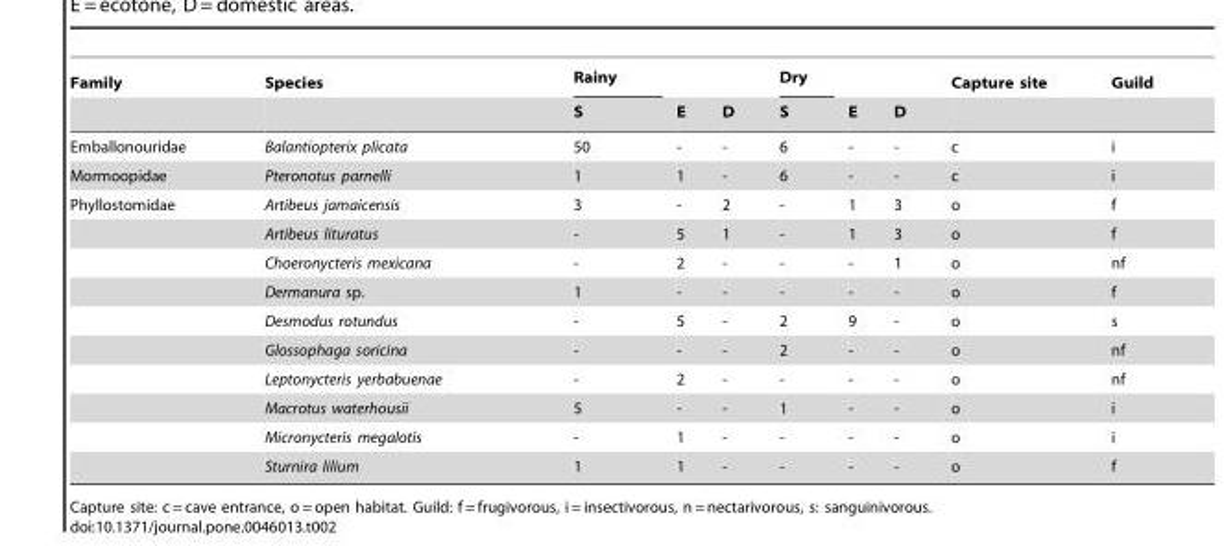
<table><thead><tr><td rowspan="2">Family</td><td rowspan="2">Species</td><td rowspan="2">Rainy S</td><td rowspan="2">E</td><td rowspan="2">D</td><td rowspan="2">Dry S</td><td rowspan="2">E</td><td rowspan="2">D</td><td rowspan="2">Capture site</td><td rowspan="2">Guild</td></tr><tr></tr></thead><tbody><tr><td>Emballonouridae</td><td>Balantiopterix plicata</td><td>50</td><td>-</td><td>-</td><td>6</td><td>-</td><td>-</td><td>c</td><td>i</td></tr><tr><td>Mormoopidae</td><td>Pteronotus parnelli</td><td>1</td><td>1</td><td>-</td><td>6</td><td>-</td><td>-</td><td>c</td><td>i</td></tr><tr><td rowspan="10">Phyllostomidae</td><td>Artibeus jamaicensis</td><td>3</td><td>-</td><td>2</td><td>-</td><td>1</td><td>3</td><td>o</td><td>f</td></tr><tr><td>Artibeus lituratus</td><td>-</td><td>5</td><td>1</td><td>-</td><td>1</td><td>3</td><td>o</td><td>f</td></tr><tr><td>Choeronycteris mexicana</td><td>-</td><td>2</td><td>-</td><td>-</td><td>-</td><td>1</td><td>o</td><td>nf</td></tr><tr><td>Dermanura sp.</td><td>1</td><td>-</td><td>-</td><td>-</td><td>-</td><td>-</td><td>o</td><td>f</td></tr><tr><td>Desmodus rotundus</td><td>-</td><td>5</td><td>-</td><td>2</td><td>9</td><td>-</td><td>o</td><td>s</td></tr><tr><td>Glossophaga soricina</td><td>-</td><td>-</td><td>-</td><td>2</td><td>-</td><td>-</td><td>o</td><td>nf</td></tr><tr><td>Leptonycteris yerbabuenae</td><td>-</td><td>2</td><td>-</td><td>-</td><td>-</td><td>-</td><td>o</td><td>nf</td></tr><tr><td>Macrotus waterhousii</td><td>5</td><td>-</td><td>-</td><td>1</td><td>-</td><td>-</td><td>o</td><td>i</td></tr><tr><td>Micronycteris megalotis</td><td>-</td><td>1</td><td>-</td><td>-</td><td>-</td><td>-</td><td>o</td><td>i</td></tr><tr><td>Sturnira lilium</td><td>1</td><td>1</td><td>-</td><td>-</td><td>-</td><td>-</td><td>o</td><td>f</td></tr></tbody></table>